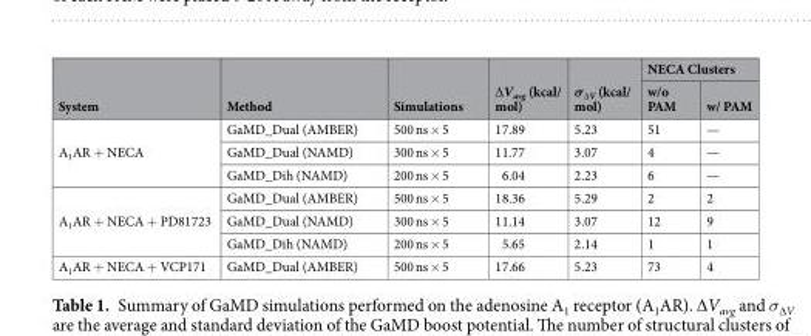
<table><thead><tr><td rowspan="2">System</td><td rowspan="2">Method</td><td rowspan="2">Simulations</td><td rowspan="2">∆V<sub>avg</sub> (kcal/ mol)</td><td rowspan="2">σ<sub>∆V</sub> (kcal/ mol)</td><td colspan="2">NECA Clusters</td></tr><tr><td>w/o PAM</td><td>w/ PAM</td></tr></thead><tbody><tr><td rowspan="3">A<sub>1</sub>AR + NECA</td><td>GaMD_Dual (AMBER)</td><td>500 ns × 5</td><td>17.89</td><td>5.23</td><td>51</td><td>—</td></tr><tr><td>GaMD_Dual (NAMD)</td><td>300 ns × 5</td><td>11.77</td><td>3.07</td><td>4</td><td>—</td></tr><tr><td>GaMD_Dih (NAMD)</td><td>200 ns × 5</td><td>6.04</td><td>2.23</td><td>6</td><td>—</td></tr><tr><td rowspan="3">A<sub>1</sub>AR + NECA + PD81723</td><td>GaMD_Dual (AMBER)</td><td>500 ns × 5</td><td>18.36</td><td>5.29</td><td>2</td><td>2</td></tr><tr><td>GaMD_Dual (NAMD)</td><td>300 ns × 5</td><td>11.14</td><td>3.07</td><td>12</td><td>9</td></tr><tr><td>GaMD_Dih (NAMD)</td><td>200 ns × 5</td><td>5.65</td><td>2.14</td><td>1</td><td>1</td></tr><tr><td>A<sub>1</sub>AR + NECA + VCP171</td><td>GaMD_Dual (AMBER)</td><td>500 ns × 5</td><td>17.66</td><td>5.23</td><td>73</td><td>4</td></tr></tbody></table>